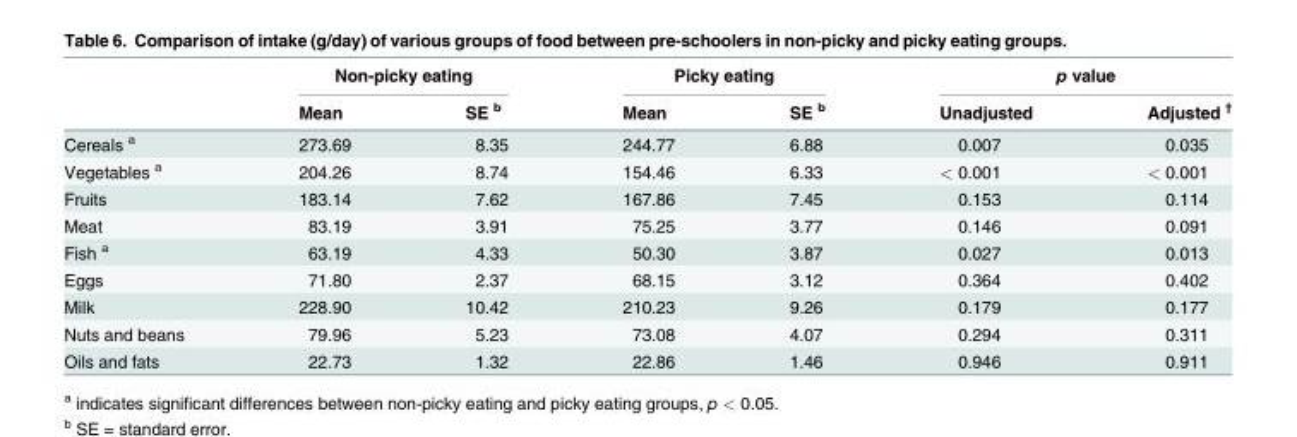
<table><thead><tr><td rowspan="2"></td><td colspan="2">Non-picky eating</td><td colspan="2">Picky eating</td><td colspan="2">p value</td></tr><tr><td>Mean</td><td>SE <sup>b</sup></td><td>Mean</td><td>SE <sup>b</sup></td><td>Unadjusted</td><td>Adjusted <sup>†</sup></td></tr></thead><tbody><tr><td>Cereals <sup>a</sup></td><td>273.69</td><td>8.35</td><td>244.77</td><td>6.88</td><td>0.007</td><td>0.035</td></tr><tr><td>Vegetables <sup>a</sup></td><td>204.26</td><td>8.74</td><td>154.46</td><td>6.33</td><td>&lt; 0.001</td><td>&lt; 0.001</td></tr><tr><td>Fruits</td><td>183.14</td><td>7.62</td><td>167.86</td><td>7.45</td><td>0.153</td><td>0.114</td></tr><tr><td>Meat</td><td>83.19</td><td>3.91</td><td>75.25</td><td>3.77</td><td>0.146</td><td>0.091</td></tr><tr><td>Fish <sup>a</sup></td><td>63.19</td><td>4.33</td><td>50.30</td><td>3.87</td><td>0.027</td><td>0.013</td></tr><tr><td>Eggs</td><td>71.80</td><td>2.37</td><td>68.15</td><td>3.12</td><td>0.364</td><td>0.402</td></tr><tr><td>Milk</td><td>228.90</td><td>10.42</td><td>210.23</td><td>9.26</td><td>0.179</td><td>0.177</td></tr><tr><td>Nuts and beans</td><td>79.96</td><td>5.23</td><td>73.08</td><td>4.07</td><td>0.294</td><td>0.311</td></tr><tr><td>Oils and fats</td><td>22.73</td><td>1.32</td><td>22.86</td><td>1.46</td><td>0.946</td><td>0.911</td></tr></tbody></table>